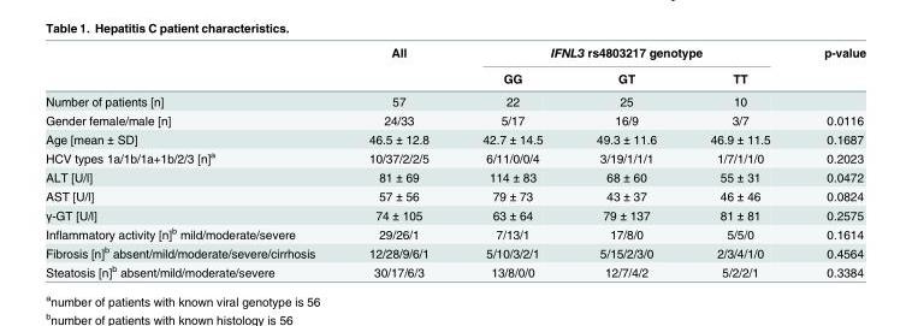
<table><thead><tr><td rowspan="2"></td><td rowspan="2">All</td><td colspan="3">IFNL3 rs4803217 genotype</td><td rowspan="2">p-value</td></tr><tr><td>GG</td><td>GT</td><td>TT</td></tr></thead><tbody><tr><td>Number of patients [n]</td><td>57</td><td>22</td><td>25</td><td>10</td><td></td></tr><tr><td>Gender female/male [n]</td><td>24/33</td><td>5/17</td><td>16/9</td><td>3/7</td><td>0.0116</td></tr><tr><td>Age [mean ± SD]</td><td>46.5 ± 12.8</td><td>42.7 ± 14.5</td><td>49.3 ± 11.6</td><td>46.9 ± 11.5</td><td>0.1687</td></tr><tr><td>HCV types 1a/1b/1a+1b/2/3 [n]<sup>a</sup></td><td>10/37/2/2/5</td><td>6/11/0/0/4</td><td>3/19/1/1/1</td><td>1/7/1/1/0</td><td>0.2023</td></tr><tr><td>ALT [U/l]</td><td>81 ± 69</td><td>114 ± 83</td><td>68 ± 60</td><td>55 ± 31</td><td>0.0472</td></tr><tr><td>AST [U/l]</td><td>57 ± 56</td><td>79 ± 73</td><td>43 ± 37</td><td>46 ± 46</td><td>0.0824</td></tr><tr><td>γ-GT [U/l]</td><td>74 ± 105</td><td>63 ± 64</td><td>79 ± 137</td><td>81 ± 81</td><td>0.2575</td></tr><tr><td>Inflammatory activity [n]<sup>b</sup> mild/moderate/severe</td><td>29/26/1</td><td>7/13/1</td><td>17/8/0</td><td>5/5/0</td><td>0.1614</td></tr><tr><td>Fibrosis [n]<sup>b</sup> absent/mild/moderate/severe/cirrhosis</td><td>12/28/9/6/1</td><td>5/10/3/2/1</td><td>5/15/2/3/0</td><td>2/3/4/1/0</td><td>0.4564</td></tr><tr><td>Steatosis [n]<sup>b</sup> absent/mild/moderate/severe</td><td>30/17/6/3</td><td>13/8/0/0</td><td>12/7/4/2</td><td>5/2/2/1</td><td>0.3384</td></tr></tbody></table>